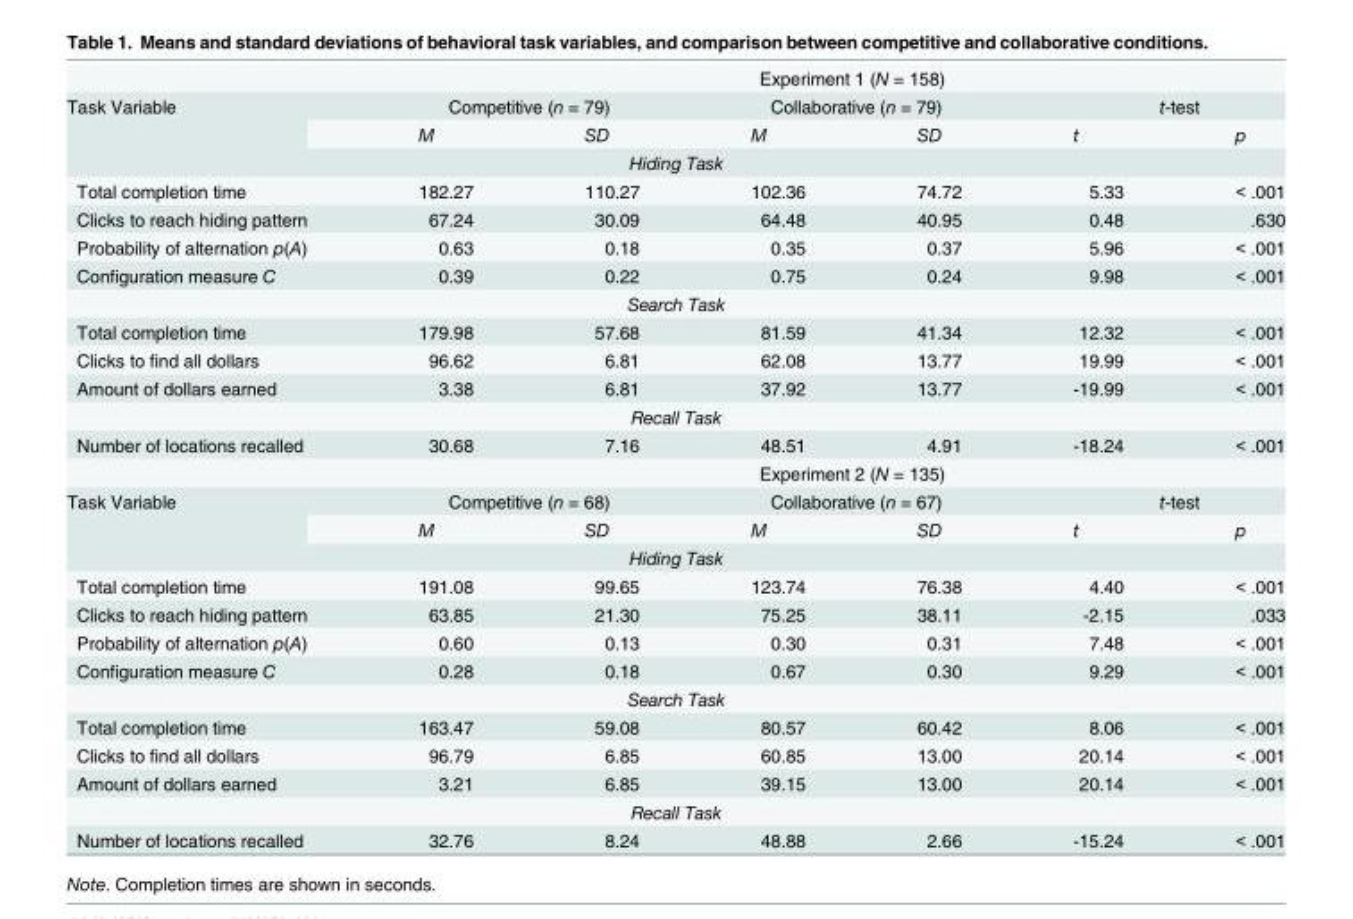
<table><thead><tr><td rowspan="3">Task Variable</td><td colspan="6">Experiment 1 (N = 158)</td></tr><tr><td colspan="2">Competitive (n = 79)</td><td colspan="2">Collaborative (n = 79)</td><td colspan="2">t-test</td></tr><tr><td>M</td><td>SD</td><td>M</td><td>SD</td><td>t</td><td>p</td></tr></thead><tbody><tr><td colspan="7">Hiding Task</td></tr><tr><td>Total completion time</td><td>182.27</td><td>110.27</td><td>102.36</td><td>74.72</td><td>5.33</td><td>&lt; .001</td></tr><tr><td>Clicks to reach hiding pattern</td><td>67.24</td><td>30.09</td><td>64.48</td><td>40.95</td><td>0.48</td><td>.630</td></tr><tr><td>Probability of alternation p(A)</td><td>0.63</td><td>0.18</td><td>0.35</td><td>0.37</td><td>5.96</td><td>&lt; .001</td></tr><tr><td>Configuration measure C</td><td>0.39</td><td>0.22</td><td>0.75</td><td>0.24</td><td>9.98</td><td>&lt; .001</td></tr><tr><td colspan="7">Search Task</td></tr><tr><td>Total completion time</td><td>179.98</td><td>57.68</td><td>81.59</td><td>41.34</td><td>12.32</td><td>&lt; .001</td></tr><tr><td>Clicks to find all dollars</td><td>96.62</td><td>6.81</td><td>62.08</td><td>13.77</td><td>19.99</td><td>&lt; .001</td></tr><tr><td>Amount of dollars earned</td><td>3.38</td><td>6.81</td><td>37.92</td><td>13.77</td><td>-19.99</td><td>&lt; .001</td></tr><tr><td colspan="7">Recall Task</td></tr><tr><td rowspan="2">Number of locations recalled</td><td>30.68</td><td>7.16</td><td>48.51</td><td>4.91</td><td>-18.24</td><td>&lt; .001</td></tr><tr><td colspan="6">Experiment 2 (N = 135)</td></tr><tr><td rowspan="2">Task Variable</td><td colspan="2">Competitive (n = 68)</td><td colspan="2">Collaborative (n = 67)</td><td colspan="2">t-test</td></tr><tr><td>M</td><td>SD</td><td>M</td><td>SD</td><td>t</td><td>p</td></tr><tr><td colspan="7">Hiding Task</td></tr><tr><td>Total completion time</td><td>191.08</td><td>99.65</td><td>123.74</td><td>76.38</td><td>4.40</td><td>&lt; .001</td></tr><tr><td>Clicks to reach hiding pattern</td><td>63.85</td><td>21.30</td><td>75.25</td><td>38.11</td><td>-2.15</td><td>.033</td></tr><tr><td>Probability of alternation p(A)</td><td>0.60</td><td>0.13</td><td>0.30</td><td>0.31</td><td>7.48</td><td>&lt; .001</td></tr><tr><td>Configuration measure C</td><td>0.28</td><td>0.18</td><td>0.67</td><td>0.30</td><td>9.29</td><td>&lt; .001</td></tr><tr><td colspan="7">Search Task</td></tr><tr><td>Total completion time</td><td>163.47</td><td>59.08</td><td>80.57</td><td>60.42</td><td>8.06</td><td>&lt; .001</td></tr><tr><td>Clicks to find all dollars</td><td>96.79</td><td>6.85</td><td>60.85</td><td>13.00</td><td>20.14</td><td>&lt; .001</td></tr><tr><td>Amount of dollars earned</td><td>3.21</td><td>6.85</td><td>39.15</td><td>13.00</td><td>20.14</td><td>&lt; .001</td></tr><tr><td colspan="7">Recall Task</td></tr><tr><td>Number of locations recalled</td><td>32.76</td><td>8.24</td><td>48.88</td><td>2.66</td><td>-15.24</td><td>&lt; .001</td></tr></tbody></table>